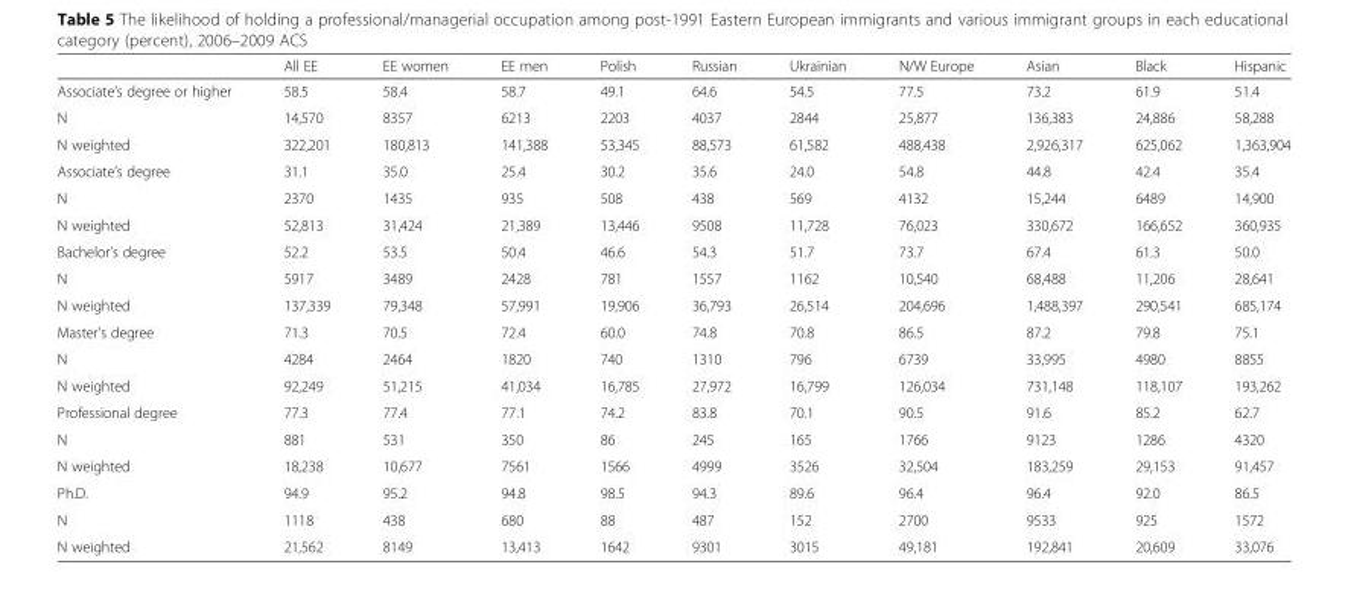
<table><thead><tr><td></td><td>All EE</td><td>EE women</td><td>EE men</td><td>Polish</td><td>Russian</td><td>Ukrainian</td><td>N/W Europe</td><td>Asian</td><td>Black</td><td>Hispanic</td></tr></thead><tbody><tr><td>Associate’s degree or higher</td><td>58.5</td><td>58.4</td><td>58.7</td><td>49.1</td><td>64.6</td><td>54.5</td><td>77.5</td><td>73.2</td><td>61.9</td><td>51.4</td></tr><tr><td>N</td><td>14,570</td><td>8357</td><td>6213</td><td>2203</td><td>4037</td><td>2844</td><td>25,877</td><td>136,383</td><td>24,886</td><td>58,288</td></tr><tr><td>N weighted</td><td>322,201</td><td>180,813</td><td>141,388</td><td>53,345</td><td>88,573</td><td>61,582</td><td>488,438</td><td>2,926,317</td><td>625,062</td><td>1,363,904</td></tr><tr><td>Associate’s degree</td><td>31.1</td><td>35.0</td><td>25.4</td><td>30.2</td><td>35.6</td><td>24.0</td><td>54.8</td><td>44.8</td><td>42.4</td><td>35.4</td></tr><tr><td>N</td><td>2370</td><td>1435</td><td>935</td><td>508</td><td>438</td><td>569</td><td>4132</td><td>15,244</td><td>6489</td><td>14,900</td></tr><tr><td>N weighted</td><td>52,813</td><td>31,424</td><td>21,389</td><td>13,446</td><td>9508</td><td>11,728</td><td>76,023</td><td>330,672</td><td>166,652</td><td>360,935</td></tr><tr><td>Bachelor’s degree</td><td>52.2</td><td>53.5</td><td>50.4</td><td>46.6</td><td>54.3</td><td>51.7</td><td>73.7</td><td>67.4</td><td>61.3</td><td>50.0</td></tr><tr><td>N</td><td>5917</td><td>3489</td><td>2428</td><td>781</td><td>1557</td><td>1162</td><td>10,540</td><td>68,488</td><td>11,206</td><td>28,641</td></tr><tr><td>N weighted</td><td>137,339</td><td>79,348</td><td>57,991</td><td>19,906</td><td>36,793</td><td>26,514</td><td>204,696</td><td>1,488,397</td><td>290,541</td><td>685,174</td></tr><tr><td>Master’s degree</td><td>71.3</td><td>70.5</td><td>72.4</td><td>60.0</td><td>74.8</td><td>70.8</td><td>86.5</td><td>87.2</td><td>79.8</td><td>75.1</td></tr><tr><td>N</td><td>4284</td><td>2464</td><td>1820</td><td>740</td><td>1310</td><td>796</td><td>6739</td><td>33,995</td><td>4980</td><td>8855</td></tr><tr><td>N weighted</td><td>92,249</td><td>51,215</td><td>41,034</td><td>16,785</td><td>27,972</td><td>16,799</td><td>126,034</td><td>731,148</td><td>118,107</td><td>193,262</td></tr><tr><td>Professional degree</td><td>77.3</td><td>77.4</td><td>77.1</td><td>74.2</td><td>83.8</td><td>70.1</td><td>90.5</td><td>91.6</td><td>85.2</td><td>62.7</td></tr><tr><td>N</td><td>881</td><td>531</td><td>350</td><td>86</td><td>245</td><td>165</td><td>1766</td><td>9123</td><td>1286</td><td>4320</td></tr><tr><td>N weighted</td><td>18,238</td><td>10,677</td><td>7561</td><td>1566</td><td>4999</td><td>3526</td><td>32,504</td><td>183,259</td><td>29,153</td><td>91,457</td></tr><tr><td>Ph.D.</td><td>94.9</td><td>95.2</td><td>94.8</td><td>98.5</td><td>94.3</td><td>89.6</td><td>96.4</td><td>96.4</td><td>92.0</td><td>86.5</td></tr><tr><td>N</td><td>1118</td><td>438</td><td>680</td><td>88</td><td>487</td><td>152</td><td>2700</td><td>9533</td><td>925</td><td>1572</td></tr><tr><td>N weighted</td><td>21,562</td><td>8149</td><td>13,413</td><td>1642</td><td>9301</td><td>3015</td><td>49,181</td><td>192,841</td><td>20,609</td><td>33,076</td></tr></tbody></table>